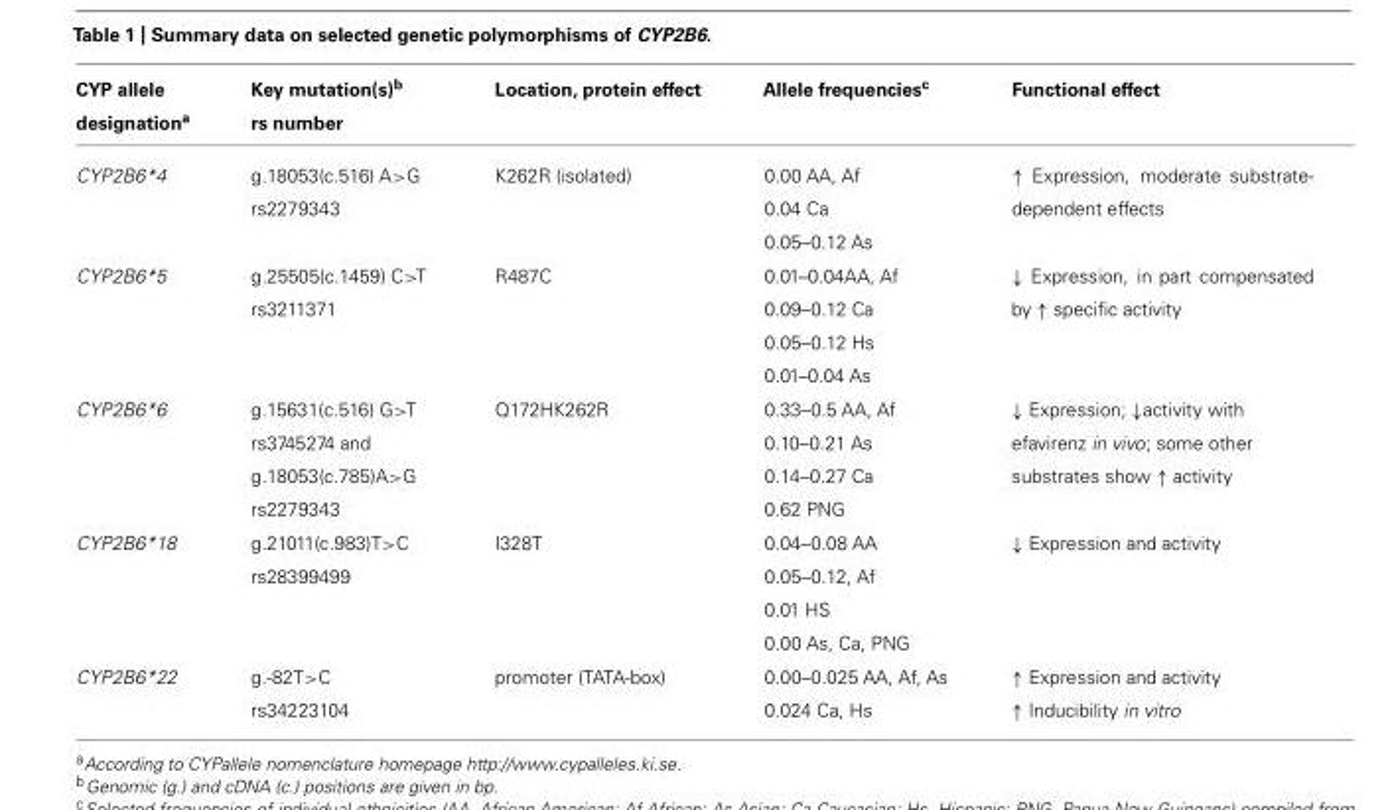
<table><thead><tr><td>CYP allele designation<sup>a</sup></td><td>Key mutation(s)<sup>b</sup> rs number</td><td>Location, protein effect</td><td>Allele frequencies<sup>c</sup></td><td>Functional effect</td></tr></thead><tbody><tr><td>CYP2B6*4</td><td>g.18053(c.516) A&gt;G rs2279343</td><td>K262R (isolated)</td><td>0.00 AA, Af 0.04 Ca 0.05–0.12 As</td><td>↑ Expression, moderate substrate- dependent effects</td></tr><tr><td>CYP2B6*5</td><td>g.25505(c.1459) C&gt;T rs3211371</td><td>R487C</td><td>0.01–0.04AA, Af 0.09–0.12 Ca 0.05–0.12 Hs 0.01–0.04 As</td><td>↓ Expression, in part compensated by ↑ specific activity</td></tr><tr><td>CYP2B6*6</td><td>g.15631(c.516) G&gt;T rs3745274 and g.18053(c.785)A&gt;G rs2279343</td><td>Q172HK262R</td><td>0.33–0.5 AA, Af 0.10–0.21 As 0.14–0.27 Ca 0.62 PNG</td><td>↓ Expression; ↓activity with efavirenz in vivo; some other substrates show ↑ activity</td></tr><tr><td>CYP2B6*18</td><td>g.21011(c.983)T&gt;C rs28399499</td><td>I328T</td><td>0.04–0.08 AA 0.05–0.12, Af 0.01 HS 0.00 As, Ca, PNG</td><td>↓ Expression and activity</td></tr><tr><td>CYP2B6*22</td><td>g.-82T&gt;C rs34223104</td><td>promoter (TATA-box)</td><td>0.00–0.025 AA, Af, As 0.024 Ca, Hs</td><td>↑ Expression and activity ↑ Inducibility in vitro</td></tr></tbody></table>